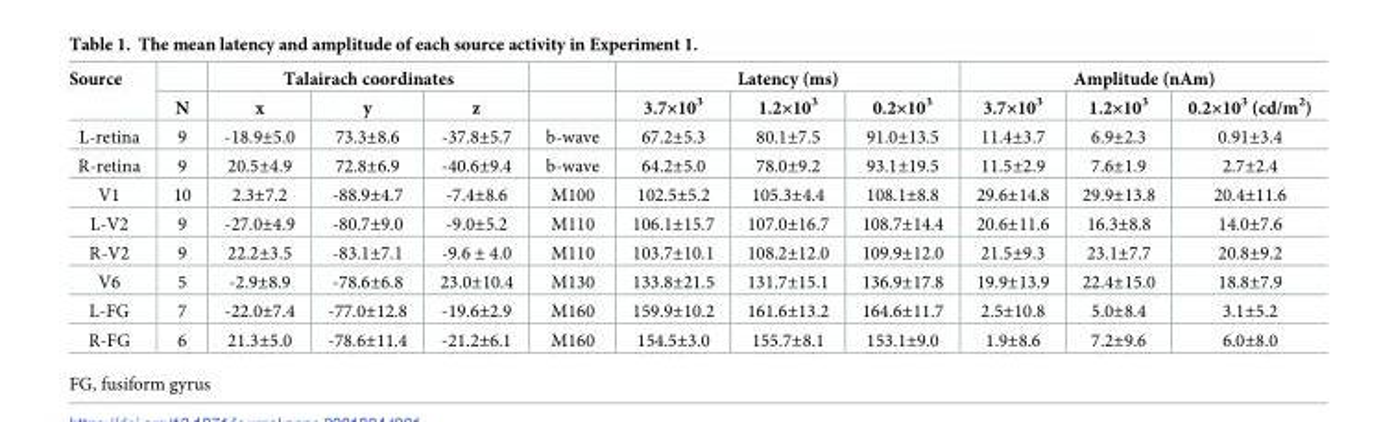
<table><thead><tr><td rowspan="2">Source</td><td rowspan="2">N</td><td colspan="3">Talairach coordinates</td><td rowspan="2"></td><td colspan="3">Latency (ms)</td><td colspan="3">Amplitude (nAm)</td></tr><tr><td>x</td><td>y</td><td>z</td><td>3.7×10<sup>3</sup></td><td>1.2×10<sup>3</sup></td><td>0.2×10<sup>3</sup></td><td>3.7×10<sup>3</sup></td><td>1.2×10<sup>3</sup></td><td>0.2×10<sup>3</sup> (cd/m<sup>2</sup>)</td></tr></thead><tbody><tr><td>L-retina</td><td>9</td><td>-18.9±5.0</td><td>73.3±8.6</td><td>-37.8±5.7</td><td>b-wave</td><td>67.2±5.3</td><td>80.1±7.5</td><td>91.0±13.5</td><td>11.4±3.7</td><td>6.9±2.3</td><td>0.91±3.4</td></tr><tr><td>R-retina</td><td>9</td><td>20.5±4.9</td><td>72.8±6.9</td><td>-40.6±9.4</td><td>b-wave</td><td>64.2±5.0</td><td>78.0±9.2</td><td>93.1±19.5</td><td>11.5±2.9</td><td>7.6±1.9</td><td>2.7±2.4</td></tr><tr><td>V1</td><td>10</td><td>2.3±7.2</td><td>-88.9±4.7</td><td>-7.4±8.6</td><td>M100</td><td>102.5±5.2</td><td>105.3±4.4</td><td>108.1±8.8</td><td>29.6±14.8</td><td>29.9±13.8</td><td>20.4±11.6</td></tr><tr><td>L-V2</td><td>9</td><td>-27.0±4.9</td><td>-80.7±9.0</td><td>-9.0±5.2</td><td>M110</td><td>106.1±15.7</td><td>107.0±16.7</td><td>108.7±14.4</td><td>20.6±11.6</td><td>16.3±8.8</td><td>14.0±7.6</td></tr><tr><td>R-V2</td><td>9</td><td>22.2±3.5</td><td>-83.1±7.1</td><td>-9.6 ± 4.0</td><td>M110</td><td>103.7±10.1</td><td>108.2±12.0</td><td>109.9±12.0</td><td>21.5±9.3</td><td>23.1±7.7</td><td>20.8±9.2</td></tr><tr><td>V6</td><td>5</td><td>-2.9±8.9</td><td>-78.6±6.8</td><td>23.0±10.4</td><td>M130</td><td>133.8±21.5</td><td>131.7±15.1</td><td>136.9±17.8</td><td>19.9±13.9</td><td>22.4±15.0</td><td>18.8±7.9</td></tr><tr><td>L-FG</td><td>7</td><td>-22.0±7.4</td><td>-77.0±12.8</td><td>-19.6±2.9</td><td>M160</td><td>159.9±10.2</td><td>161.6±13.2</td><td>164.6±11.7</td><td>2.5±10.8</td><td>5.0±8.4</td><td>3.1±5.2</td></tr><tr><td>R-FG</td><td>6</td><td>21.3±5.0</td><td>-78.6±11.4</td><td>-21.2±6.1</td><td>M160</td><td>154.5±3.0</td><td>155.7±8.1</td><td>153.1±9.0</td><td>1.9±8.6</td><td>7.2±9.6</td><td>6.0±8.0</td></tr></tbody></table>